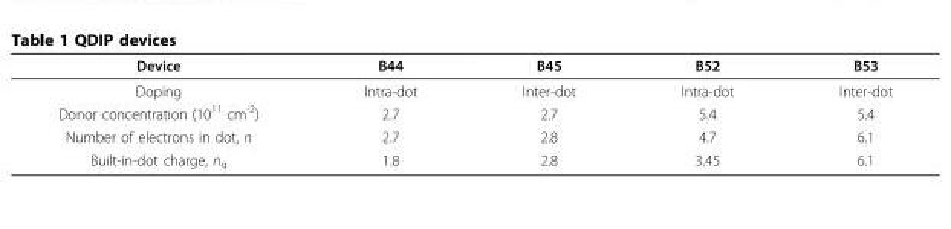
<table><thead><tr><td>Device</td><td>B44</td><td>B45</td><td>B52</td><td>B53</td></tr></thead><tbody><tr><td>Doping</td><td>Intra-dot</td><td>Inter-dot</td><td>Intra-dot</td><td>Inter-dot</td></tr><tr><td>Donor concentration (10<sup>11</sup> cm<sup>-2</sup>)</td><td>2.7</td><td>2.7</td><td>5.4</td><td>5.4</td></tr><tr><td>Number of electrons in dot, n</td><td>2.7</td><td>2.8</td><td>4.7</td><td>6.1</td></tr><tr><td>Built-in-dot charge, n<sub>q</sub></td><td>1.8</td><td>2.8</td><td>3.45</td><td>6.1</td></tr></tbody></table>